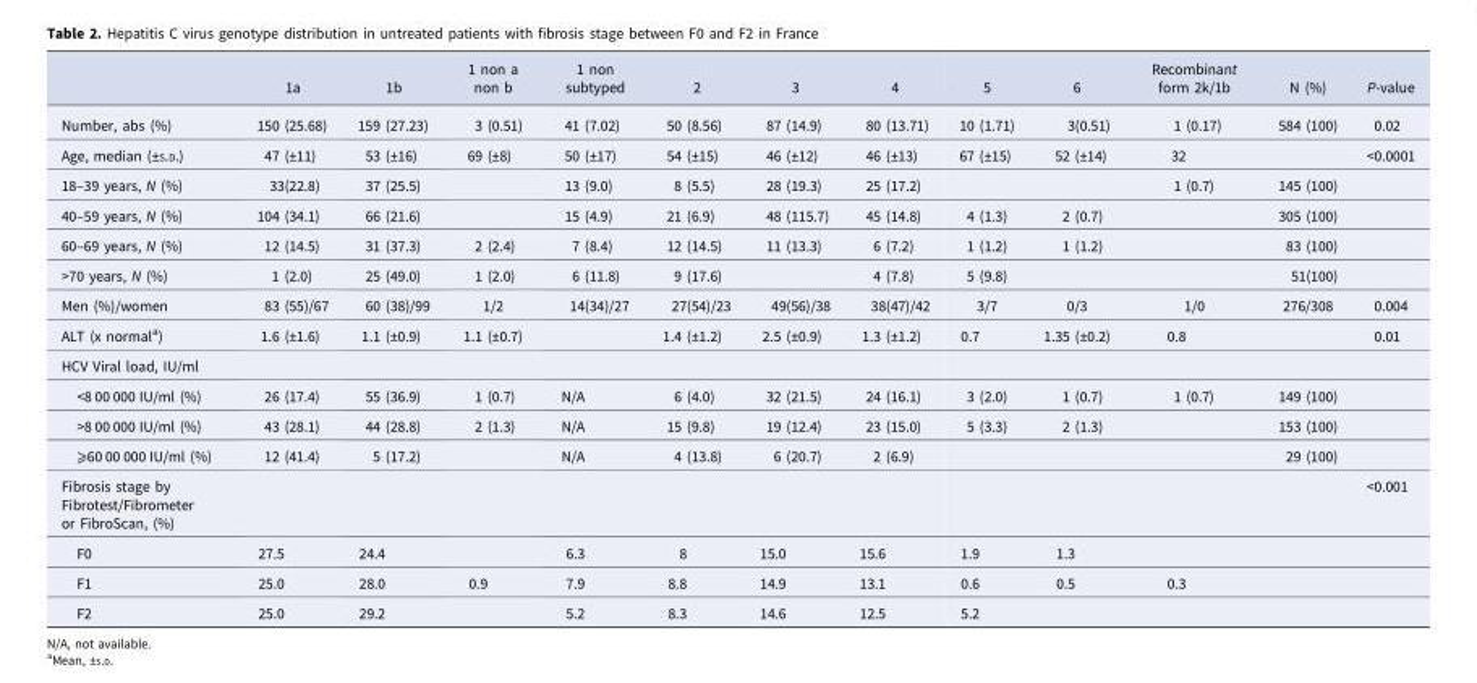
<table><thead><tr><td></td><td>1a</td><td>1b</td><td>1 non a non b</td><td>1 non subtyped</td><td>2</td><td>3</td><td>4</td><td>5</td><td>6</td><td>Recombinant form 2k/1b</td><td>N (%)</td><td>P-value</td></tr></thead><tbody><tr><td>Number, abs (%)</td><td>150 (25.68)</td><td>159 (27.23)</td><td>3 (0.51)</td><td>41 (7.02)</td><td>50 (8.56)</td><td>87 (14.9)</td><td>80 (13.71)</td><td>10 (1.71)</td><td>3(0.51)</td><td>1 (0.17)</td><td>584 (100)</td><td>0.02</td></tr><tr><td>Age, median (±S.D.)</td><td>47 (±11)</td><td>53 (±16)</td><td>69 (±8)</td><td>50 (±17)</td><td>54 (±15)</td><td>46 (±12)</td><td>46 (±13)</td><td>67 (±15)</td><td>52 (±14)</td><td>32</td><td></td><td>&lt;0.0001</td></tr><tr><td>18–39 years, N (%)</td><td>33(22.8)</td><td>37 (25.5)</td><td></td><td>13 (9.0)</td><td>8 (5.5)</td><td>28 (19.3)</td><td>25 (17.2)</td><td></td><td></td><td>1 (0.7)</td><td>145 (100)</td><td></td></tr><tr><td>40–59 years, N (%)</td><td>104 (34.1)</td><td>66 (21.6)</td><td></td><td>15 (4.9)</td><td>21 (6.9)</td><td>48 (115.7)</td><td>45 (14.8)</td><td>4 (1.3)</td><td>2 (0.7)</td><td></td><td>305 (100)</td><td></td></tr><tr><td>60–69 years, N (%)</td><td>12 (14.5)</td><td>31 (37.3)</td><td>2 (2.4)</td><td>7 (8.4)</td><td>12 (14.5)</td><td>11 (13.3)</td><td>6 (7.2)</td><td>1 (1.2)</td><td>1 (1.2)</td><td></td><td>83 (100)</td><td></td></tr><tr><td>&gt;70 years, N (%)</td><td>1 (2.0)</td><td>25 (49.0)</td><td>1 (2.0)</td><td>6 (11.8)</td><td>9 (17.6)</td><td></td><td>4 (7.8)</td><td>5 (9.8)</td><td></td><td></td><td>51(100)</td><td></td></tr><tr><td>Men (%)/women</td><td>83 (55)/67</td><td>60 (38)/99</td><td>1/2</td><td>14(34)/27</td><td>27(54)/23</td><td>49(56)/38</td><td>38(47)/42</td><td>3/7</td><td>0/3</td><td>1/0</td><td>276/308</td><td>0.004</td></tr><tr><td>ALT (x normal<sup>a</sup>)</td><td>1.6 (±1.6)</td><td>1.1 (±0.9)</td><td>1.1 (±0.7)</td><td></td><td>1.4 (±1.2)</td><td>2.5 (±0.9)</td><td>1.3 (±1.2)</td><td>0.7</td><td>1.35 (±0.2)</td><td>0.8</td><td></td><td>0.01</td></tr><tr><td colspan="13">HCV Viral load, IU/ml</td></tr><tr><td>&lt;8 00 000 IU/ml (%)</td><td>26 (17.4)</td><td>55 (36.9)</td><td>1 (0.7)</td><td>N/A</td><td>6 (4.0)</td><td>32 (21.5)</td><td>24 (16.1)</td><td>3 (2.0)</td><td>1 (0.7)</td><td>1 (0.7)</td><td>149 (100)</td><td></td></tr><tr><td>&gt;8 00 000 IU/ml (%)</td><td>43 (28.1)</td><td>44 (28.8)</td><td>2 (1.3)</td><td>N/A</td><td>15 (9.8)</td><td>19 (12.4)</td><td>23 (15.0)</td><td>5 (3.3)</td><td>2 (1.3)</td><td></td><td>153 (100)</td><td></td></tr><tr><td>⩾60 00 000 IU/ml (%)</td><td>12 (41.4)</td><td>5 (17.2)</td><td></td><td>N/A</td><td>4 (13.8)</td><td>6 (20.7)</td><td>2 (6.9)</td><td></td><td></td><td></td><td>29 (100)</td><td></td></tr><tr><td>Fibrosis stage by Fibrotest/Fibrometer or FibroScan, (%)</td><td></td><td></td><td></td><td></td><td></td><td></td><td></td><td></td><td></td><td></td><td></td><td>&lt;0.001</td></tr><tr><td>F0</td><td>27.5</td><td>24.4</td><td></td><td>6.3</td><td>8</td><td>15.0</td><td>15.6</td><td>1.9</td><td>1.3</td><td></td><td></td><td></td></tr><tr><td>F1</td><td>25.0</td><td>28.0</td><td>0.9</td><td>7.9</td><td>8.8</td><td>14.9</td><td>13.1</td><td>0.6</td><td>0.5</td><td>0.3</td><td></td><td></td></tr><tr><td>F2</td><td>25.0</td><td>29.2</td><td></td><td>5.2</td><td>8.3</td><td>14.6</td><td>12.5</td><td>5.2</td><td></td><td></td><td></td><td></td></tr></tbody></table>